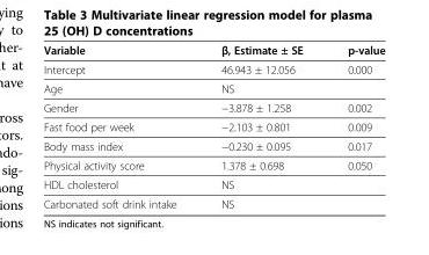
<table><thead><tr><td>Variable</td><td>β, Estimate ± SE</td><td>p-value</td></tr></thead><tbody><tr><td>Intercept</td><td>46.943 ± 12.056</td><td>0.000</td></tr><tr><td>Age</td><td>NS</td><td></td></tr><tr><td>Gender</td><td>−3.878 ± 1.258</td><td>0.002</td></tr><tr><td>Fast food per week</td><td>−2.103 ± 0.801</td><td>0.009</td></tr><tr><td>Body mass index</td><td>−0.230 ± 0.095</td><td>0.017</td></tr><tr><td>Physical activity score</td><td>1.378 ± 0.698</td><td>0.050</td></tr><tr><td>HDL cholesterol</td><td>NS</td><td></td></tr><tr><td>Carbonated soft drink intake</td><td>NS</td><td></td></tr></tbody></table>